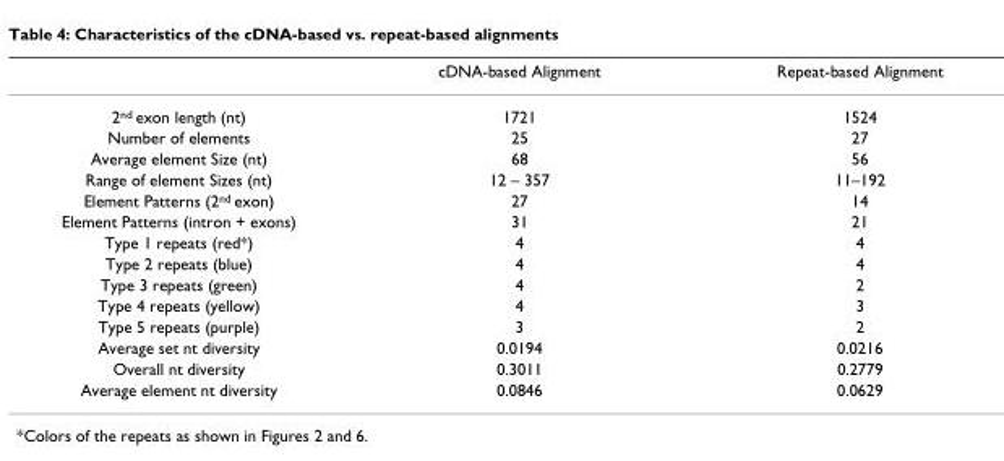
<table><thead><tr><td></td><td>cDNA-based Alignment</td><td>Repeat-based Alignment</td></tr></thead><tbody><tr><td>2<sup>nd</sup> exon length (nt)</td><td>1721</td><td>1524</td></tr><tr><td>Number of elements</td><td>25</td><td>27</td></tr><tr><td>Average element Size (nt)</td><td>68</td><td>56</td></tr><tr><td>Range of element Sizes (nt)</td><td>12 – 357</td><td>11–192</td></tr><tr><td>Element Patterns (2<sup>nd</sup> exon)</td><td>27</td><td>14</td></tr><tr><td>Element Patterns (intron + exons)</td><td>31</td><td>21</td></tr><tr><td>Type 1 repeats (red*)</td><td>4</td><td>4</td></tr><tr><td>Type 2 repeats (blue)</td><td>4</td><td>4</td></tr><tr><td>Type 3 repeats (green)</td><td>4</td><td>2</td></tr><tr><td>Type 4 repeats (yellow)</td><td>4</td><td>3</td></tr><tr><td>Type 5 repeats (purple)</td><td>3</td><td>2</td></tr><tr><td>Average set nt diversity</td><td>0.0194</td><td>0.0216</td></tr><tr><td>Overall nt diversity</td><td>0.3011</td><td>0.2779</td></tr><tr><td>Average element nt diversity</td><td>0.0846</td><td>0.0629</td></tr></tbody></table>